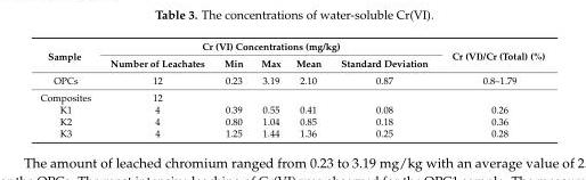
<table><thead><tr><td rowspan="2">Sample</td><td colspan="5">Cr (VI) Concentrations (mg/kg)</td><td rowspan="2">Cr (VI)/Cr (Total) (%)</td></tr><tr><td>Number of Leachates</td><td>Min</td><td>Max</td><td>Mean</td><td>Standard Deviation</td></tr></thead><tbody><tr><td>OPCs</td><td>12</td><td>0.23</td><td>3.19</td><td>2.10</td><td>0.87</td><td>0.8–1.79</td></tr><tr><td>Composites</td><td>12</td><td></td><td></td><td></td><td></td><td></td></tr><tr><td>K1</td><td>4</td><td>0.39</td><td>0.55</td><td>0.41</td><td>0.08</td><td>0.26</td></tr><tr><td>K2</td><td>4</td><td>0.80</td><td>1.04</td><td>0.85</td><td>0.18</td><td>0.36</td></tr><tr><td>K3</td><td>4</td><td>1.25</td><td>1.44</td><td>1.36</td><td>0.25</td><td>0.28</td></tr></tbody></table>